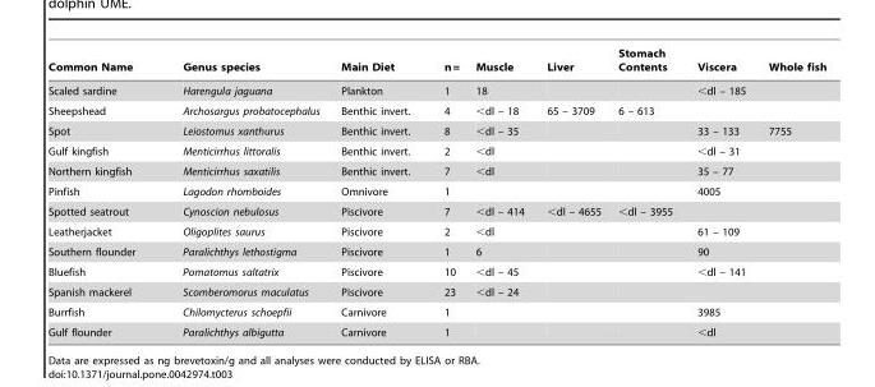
<table><thead><tr><td>Common Name</td><td>Genus species</td><td>Main Diet</td><td>n =</td><td>Muscle</td><td>Liver</td><td>Stomach Contents</td><td>Viscera</td><td>Whole fish</td></tr></thead><tbody><tr><td>Scaled sardine</td><td>Harengula jaguana</td><td>Plankton</td><td>1</td><td>18</td><td></td><td></td><td>&lt;dl – 185</td><td></td></tr><tr><td>Sheepshead</td><td>Archosargus probatocephalus</td><td>Benthic invert.</td><td>4</td><td>&lt;dl – 18</td><td>65 – 3709</td><td>6 – 613</td><td></td><td></td></tr><tr><td>Spot</td><td>Leiostomus xanthurus</td><td>Benthic invert.</td><td>8</td><td>&lt;dl – 35</td><td></td><td></td><td>33 – 133</td><td>7755</td></tr><tr><td>Gulf kingfish</td><td>Menticirrhus littoralis</td><td>Benthic invert.</td><td>2</td><td>&lt;dl</td><td></td><td></td><td>&lt;dl – 31</td><td></td></tr><tr><td>Northern kingfish</td><td>Menticirrhus saxatilis</td><td>Benthic invert.</td><td>7</td><td>&lt;dl</td><td></td><td></td><td>35 – 77</td><td></td></tr><tr><td>Pinfish</td><td>Lagodon rhomboides</td><td>Omnivore</td><td>1</td><td></td><td></td><td></td><td>4005</td><td></td></tr><tr><td>Spotted seatrout</td><td>Cynoscion nebulosus</td><td>Piscivore</td><td>7</td><td>&lt;dl – 414</td><td>&lt;dl – 4655</td><td>&lt;dl – 3955</td><td></td><td></td></tr><tr><td>Leatherjacket</td><td>Oligoplites saurus</td><td>Piscivore</td><td>2</td><td>&lt;dl</td><td></td><td></td><td>61 – 109</td><td></td></tr><tr><td>Southern flounder</td><td>Paralichthys lethostigma</td><td>Piscivore</td><td>1</td><td>6</td><td></td><td></td><td>90</td><td></td></tr><tr><td>Bluefish</td><td>Pomatomus saltatrix</td><td>Piscivore</td><td>10</td><td>&lt;dl – 45</td><td></td><td></td><td>&lt;dl – 141</td><td></td></tr><tr><td>Spanish mackerel</td><td>Scomberomorus maculatus</td><td>Piscivore</td><td>23</td><td>&lt;dl – 24</td><td></td><td></td><td></td><td></td></tr><tr><td>Burrfish</td><td>Chilomycterus schoepfii</td><td>Carnivore</td><td>1</td><td></td><td></td><td></td><td>3985</td><td></td></tr><tr><td>Gulf flounder</td><td>Paralichthys albigutta</td><td>Carnivore</td><td>1</td><td></td><td></td><td></td><td>&lt;dl</td><td></td></tr></tbody></table>